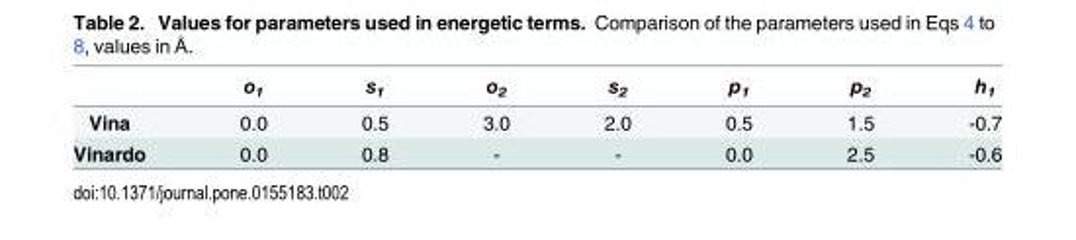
<table><thead><tr><td></td><td>o<sub>1</sub></td><td>s<sub>1</sub></td><td>o<sub>2</sub></td><td>s<sub>2</sub></td><td>p<sub>1</sub></td><td>p<sub>2</sub></td><td>h<sub>1</sub></td></tr></thead><tbody><tr><td>Vina</td><td>0.0</td><td>0.5</td><td>3.0</td><td>2.0</td><td>0.5</td><td>1.5</td><td>-0.7</td></tr><tr><td>Vinardo</td><td>0.0</td><td>0.8</td><td>-</td><td>-</td><td>0.0</td><td>2.5</td><td>-0.6</td></tr></tbody></table>